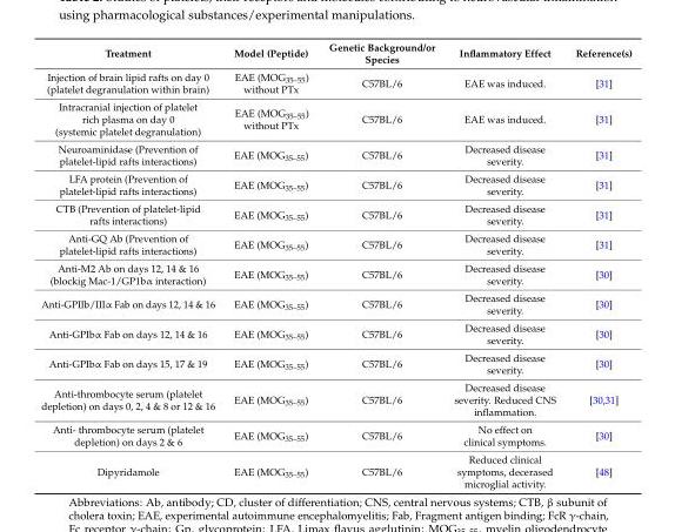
<table><thead><tr><td>Treatment</td><td>Model (Peptide)</td><td>Genetic Background/or Species</td><td>Inflammatory Effect</td><td>Reference(s)</td></tr></thead><tbody><tr><td>Injection of brain lipid rafts on day 0 (platelet degranulation within brain)</td><td>EAE (MOG<sub>35–55</sub>) without PTx</td><td>C57BL/6</td><td>EAE was induced.</td><td>[31]</td></tr><tr><td>Intracranial injection of platelet rich plasma on day 0 (systemic platelet degranulation)</td><td>EAE (MOG<sub>35–55</sub>) without PTx</td><td>C57BL/6</td><td>EAE was induced.</td><td>[31]</td></tr><tr><td>Neuroaminidase (Prevention of platelet-lipid rafts interactions)</td><td>EAE (MOG<sub>35–55</sub>)</td><td>C57BL/6</td><td>Decreased disease severity.</td><td>[31]</td></tr><tr><td>LFA protein (Prevention of platelet-lipid rafts interactions)</td><td>EAE (MOG<sub>35–55</sub>)</td><td>C57BL/6</td><td>Decreased disease severity.</td><td>[31]</td></tr><tr><td>CTB (Prevention of platelet-lipid rafts interactions)</td><td>EAE (MOG<sub>35–55</sub>)</td><td>C57BL/6</td><td>Decreased disease severity.</td><td>[31]</td></tr><tr><td>Anti-GQ Ab (Prevention of platelet-lipid rafts interactions)</td><td>EAE (MOG<sub>35–55</sub>)</td><td>C57BL/6</td><td>Decreased disease severity.</td><td>[31]</td></tr><tr><td>Anti-M2 Ab on days 12, 14 &amp; 16 (blockig Mac-1/GP1bα interaction)</td><td>EAE (MOG<sub>35–55</sub>)</td><td>C57BL/6</td><td>Decreased disease severity.</td><td>[30]</td></tr><tr><td>Anti-GPIIb/IIIα Fab on days 12, 14 &amp; 16</td><td>EAE (MOG<sub>35–55</sub>)</td><td>C57BL/6</td><td>Decreased disease severity.</td><td>[30]</td></tr><tr><td>Anti-GPIbα Fab on days 12, 14 &amp; 16</td><td>EAE (MOG<sub>35–55</sub>)</td><td>C57BL/6</td><td>Decreased disease severity.</td><td>[30]</td></tr><tr><td>Anti-GPIbα Fab on days 15, 17 &amp; 19</td><td>EAE (MOG<sub>35–55</sub>)</td><td>C57BL/6</td><td>Decreased disease severity.</td><td>[30]</td></tr><tr><td>Anti-thrombocyte serum (platelet depletion) on days 0, 2, 4 &amp; 8 or 12 &amp; 16</td><td>EAE (MOG<sub>35–55</sub>)</td><td>C57BL/6</td><td>Decreased disease severity. Reduced CNS inflammation.</td><td>[30,31]</td></tr><tr><td>Anti- thrombocyte serum (platelet depletion) on days 2 &amp; 6</td><td>EAE (MOG<sub>35–55</sub>)</td><td>C57BL/6</td><td>No effect on clinical symptoms.</td><td>[30]</td></tr><tr><td>Dipyridamole</td><td>EAE (MOG<sub>35–55</sub>)</td><td>C57BL/6</td><td>Reduced clinical symptoms, decerased microglial activity.</td><td>[48]</td></tr></tbody></table>